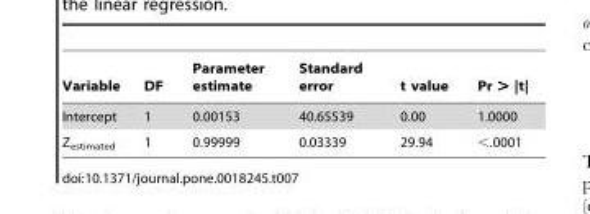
<table><thead><tr><td>Variable</td><td>DF</td><td>Parameter estimate</td><td>Standard error</td><td>t value</td><td>Pr &gt; |t|</td></tr></thead><tbody><tr><td>Intercept</td><td>1</td><td>0.00153</td><td>40.65539</td><td>0.00</td><td>1.0000</td></tr><tr><td>Z<sub>estimated</sub></td><td>1</td><td>0.99999</td><td>0.03339</td><td>29.94</td><td>&lt;.0001</td></tr></tbody></table>